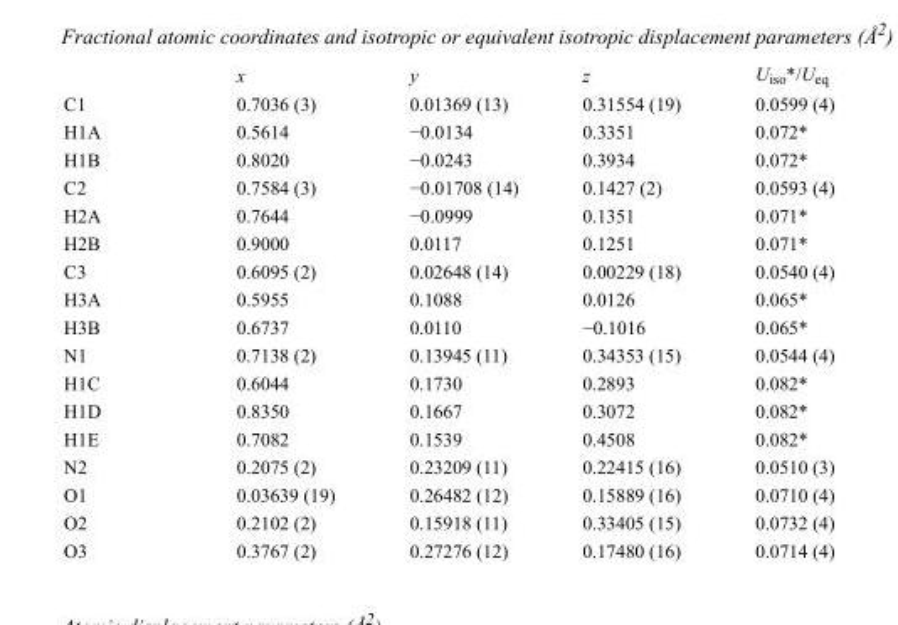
<table><thead><tr><td></td><td>x</td><td>y</td><td>z</td><td>U<sub>iso</sub>*/U<sub>eq</sub></td></tr></thead><tbody><tr><td>C1</td><td>0.7036 (3)</td><td>0.01369 (13)</td><td>0.31554 (19)</td><td>0.0599 (4)</td></tr><tr><td>H1A</td><td>0.5614</td><td>−0.0134</td><td>0.3351</td><td>0.072*</td></tr><tr><td>H1B</td><td>0.8020</td><td>−0.0243</td><td>0.3934</td><td>0.072*</td></tr><tr><td>C2</td><td>0.7584 (3)</td><td>−0.01708 (14)</td><td>0.1427 (2)</td><td>0.0593 (4)</td></tr><tr><td>H2A</td><td>0.7644</td><td>−0.0999</td><td>0.1351</td><td>0.071*</td></tr><tr><td>H2B</td><td>0.9000</td><td>0.0117</td><td>0.1251</td><td>0.071*</td></tr><tr><td>C3</td><td>0.6095 (2)</td><td>0.02648 (14)</td><td>0.00229 (18)</td><td>0.0540 (4)</td></tr><tr><td>H3A</td><td>0.5955</td><td>0.1088</td><td>0.0126</td><td>0.065*</td></tr><tr><td>H3B</td><td>0.6737</td><td>0.0110</td><td>−0.1016</td><td>0.065*</td></tr><tr><td>N1</td><td>0.7138 (2)</td><td>0.13945 (11)</td><td>0.34353 (15)</td><td>0.0544 (4)</td></tr><tr><td>H1C</td><td>0.6044</td><td>0.1730</td><td>0.2893</td><td>0.082*</td></tr><tr><td>H1D</td><td>0.8350</td><td>0.1667</td><td>0.3072</td><td>0.082*</td></tr><tr><td>H1E</td><td>0.7082</td><td>0.1539</td><td>0.4508</td><td>0.082*</td></tr><tr><td>N2</td><td>0.2075 (2)</td><td>0.23209 (11)</td><td>0.22415 (16)</td><td>0.0510 (3)</td></tr><tr><td>O1</td><td>0.03639 (19)</td><td>0.26482 (12)</td><td>0.15889 (16)</td><td>0.0710 (4)</td></tr><tr><td>O2</td><td>0.2102 (2)</td><td>0.15918 (11)</td><td>0.33405 (15)</td><td>0.0732 (4)</td></tr><tr><td>O3</td><td>0.3767 (2)</td><td>0.27276 (12)</td><td>0.17480 (16)</td><td>0.0714 (4)</td></tr></tbody></table>